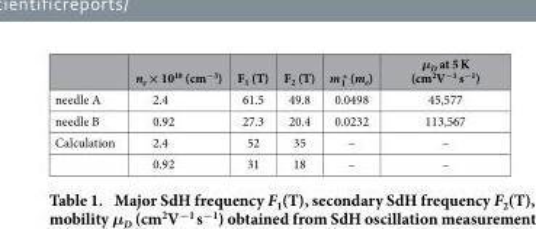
<table><thead><tr><td></td><td>n<sub>e</sub> × 10<sup>18</sup> (cm<sup>−3</sup>)</td><td>F<sub>1</sub> (T)</td><td>F<sub>2</sub> (T)</td><td>⁎ m1 (me)</td><td>μ<sub>D</sub> at 5 K (cm<sup>2</sup>V<sup>−1</sup> s<sup>−1</sup>)</td></tr></thead><tbody><tr><td>needle A</td><td>2.4</td><td>61.5</td><td>49.8</td><td>0.0498</td><td>45,577</td></tr><tr><td>needle B</td><td>0.92</td><td>27.3</td><td>20.4</td><td>0.0232</td><td>113,567</td></tr><tr><td rowspan="2">Calculation</td><td>2.4</td><td>52</td><td>35</td><td>–</td><td>–</td></tr><tr><td>0.92</td><td>31</td><td>18</td><td>–</td><td>–</td></tr></tbody></table>